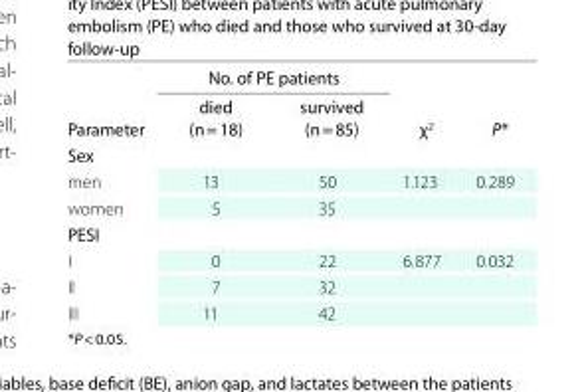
<table><thead><tr><td rowspan="2">Parameter</td><td colspan="2">No. of Pe patients</td><td rowspan="2">χ<sup>2</sup></td><td rowspan="2">P*</td></tr><tr><td>died (n = 18)</td><td>survived (n = 85)</td></tr></thead><tbody><tr><td colspan="5">Sex</td></tr><tr><td>men</td><td>13</td><td>50</td><td rowspan="2">1.123</td><td rowspan="2">0.289</td></tr><tr><td>women</td><td>5</td><td>35</td></tr><tr><td colspan="5">PeSi</td></tr><tr><td>I</td><td>0</td><td>22</td><td rowspan="3">6.877</td><td rowspan="3">0.032</td></tr><tr><td>II</td><td>7</td><td>32</td></tr><tr><td>III</td><td>11</td><td>42</td></tr></tbody></table>